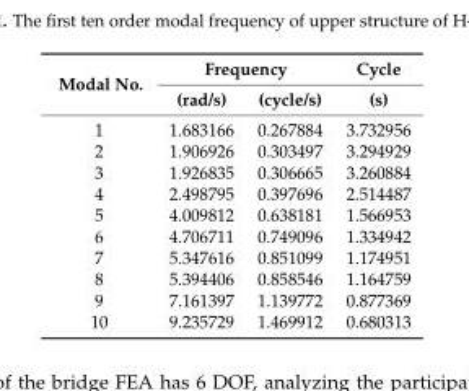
<table><thead><tr><td rowspan="2">Modal No.</td><td colspan="2">Frequency</td><td rowspan="2">Cycle (s)</td></tr><tr><td>(rad/s)</td><td>(cycle/s)</td></tr></thead><tbody><tr><td>1</td><td>1.683166</td><td>0.267884</td><td>3.732956</td></tr><tr><td>2</td><td>1.906926</td><td>0.303497</td><td>3.294929</td></tr><tr><td>3</td><td>1.926835</td><td>0.306665</td><td>3.260884</td></tr><tr><td>4</td><td>2.498795</td><td>0.397696</td><td>2.514487</td></tr><tr><td>5</td><td>4.009812</td><td>0.638181</td><td>1.566953</td></tr><tr><td>6</td><td>4.706711</td><td>0.749096</td><td>1.334942</td></tr><tr><td>7</td><td>5.347616</td><td>0.851099</td><td>1.174951</td></tr><tr><td>8</td><td>5.394406</td><td>0.858546</td><td>1.164759</td></tr><tr><td>9</td><td>7.161397</td><td>1.139772</td><td>0.877369</td></tr><tr><td>10</td><td>9.235729</td><td>1.469912</td><td>0.680313</td></tr></tbody></table>